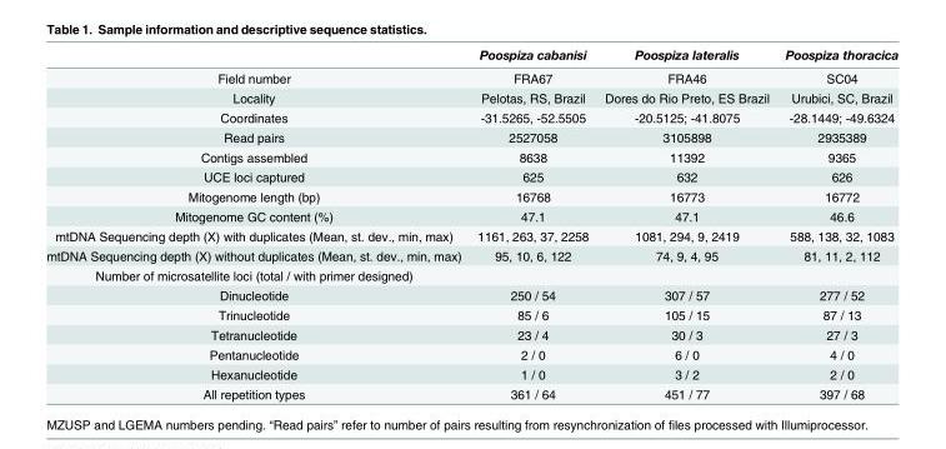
<table><thead><tr><td></td><td>Poospiza cabanisi</td><td>Poospiza lateralis</td><td>Poospiza thoracica</td></tr></thead><tbody><tr><td>Field number</td><td>FRA67</td><td>FRA46</td><td>SC04</td></tr><tr><td>Locality</td><td>Pelotas, RS, Brazil</td><td>Dores do Rio Preto, ES Brazil</td><td>Urubici, SC, Brazil</td></tr><tr><td>Coordinates</td><td>-31.5265, -52.5505</td><td>-20.5125; -41.8075</td><td>-28.1449; -49.6324</td></tr><tr><td>Read pairs</td><td>2527058</td><td>3105898</td><td>2935389</td></tr><tr><td>Contigs assembled</td><td>8638</td><td>11392</td><td>9365</td></tr><tr><td>UCE loci captured</td><td>625</td><td>632</td><td>626</td></tr><tr><td>Mitogenome length (bp)</td><td>16768</td><td>16773</td><td>16772</td></tr><tr><td>Mitogenome GC content (%)</td><td>47.1</td><td>47.1</td><td>46.6</td></tr><tr><td>mtDNA Sequencing depth (X) with duplicates (Mean, st. dev., min, max)</td><td>1161, 263, 37, 2258</td><td>1081, 294, 9, 2419</td><td>588, 138, 32, 1083</td></tr><tr><td>mtDNA Sequencing depth (X) without duplicates (Mean, st. dev., min, max)</td><td>95, 10, 6, 122</td><td>74, 9, 4, 95</td><td>81, 11, 2, 112</td></tr><tr><td colspan="4">Number of microsatellite loci (total / with primer designed)</td></tr><tr><td>Dinucleotide</td><td>250 / 54</td><td>307 / 57</td><td>277 / 52</td></tr><tr><td>Trinucleotide</td><td>85 / 6</td><td>105 / 15</td><td>87 / 13</td></tr><tr><td>Tetranucleotide</td><td>23 / 4</td><td>30 / 3</td><td>27 / 3</td></tr><tr><td>Pentanucleotide</td><td>2 / 0</td><td>6 / 0</td><td>4 / 0</td></tr><tr><td>Hexanucleotide</td><td>1 / 0</td><td>3 / 2</td><td>2 / 0</td></tr><tr><td>All repetition types</td><td>361 / 64</td><td>451 / 77</td><td>397 / 68</td></tr></tbody></table>